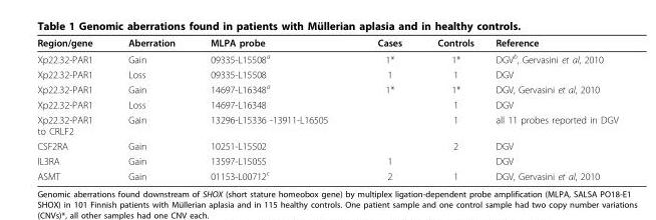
<table><thead><tr><td>Region/gene</td><td>Aberration</td><td>MLPA probe</td><td>Cases</td><td>Controls</td><td>Reference</td></tr></thead><tbody><tr><td>Xp22.32-PAR1</td><td>Gain</td><td>09335-L15508<sup>a</sup></td><td>1*</td><td>1*</td><td>DGV<sup>b</sup>, Gervasini et al, 2010</td></tr><tr><td>Xp22.32-PAR1</td><td>Loss</td><td>09335-L15508</td><td>1</td><td>1</td><td>DGV</td></tr><tr><td>Xp22.32-PAR1</td><td>Gain</td><td>14697-L16348<sup>a</sup></td><td>1*</td><td>1*</td><td>DGV, Gervasini et al, 2010</td></tr><tr><td>Xp22.32-PAR1</td><td>Loss</td><td>14697-L16348</td><td></td><td>1</td><td>DGV</td></tr><tr><td>Xp22.32-PAR1 to CRLF2</td><td>Gain</td><td>13296-L15336 -13911-L16505</td><td></td><td>1</td><td>all 11 probes reported in DGV</td></tr><tr><td>CSF2RA</td><td>Gain</td><td>10251-L15502</td><td></td><td>2</td><td>DGV</td></tr><tr><td>IL3RA</td><td>Gain</td><td>13597-L15055</td><td>1</td><td></td><td>DGV</td></tr><tr><td>ASMT</td><td>Gain</td><td>01153-L00712<sup>c</sup></td><td>2</td><td>1</td><td>DGV, Gervasini et al, 2010</td></tr></tbody></table>